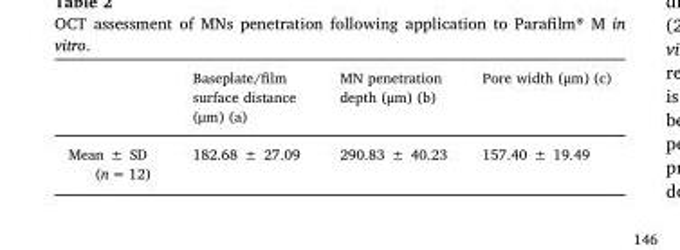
<table><thead><tr><td></td><td>Baseplate/film surface distance (μm) (a)</td><td>MN penetration depth (μm) (b)</td><td>Pore width (μm) (c)</td></tr></thead><tbody><tr><td>Mean ± SD (n = 12)</td><td>182.68 ± 27.09</td><td>290.83 ± 40.23</td><td>157.40 ± 19.49</td></tr></tbody></table>